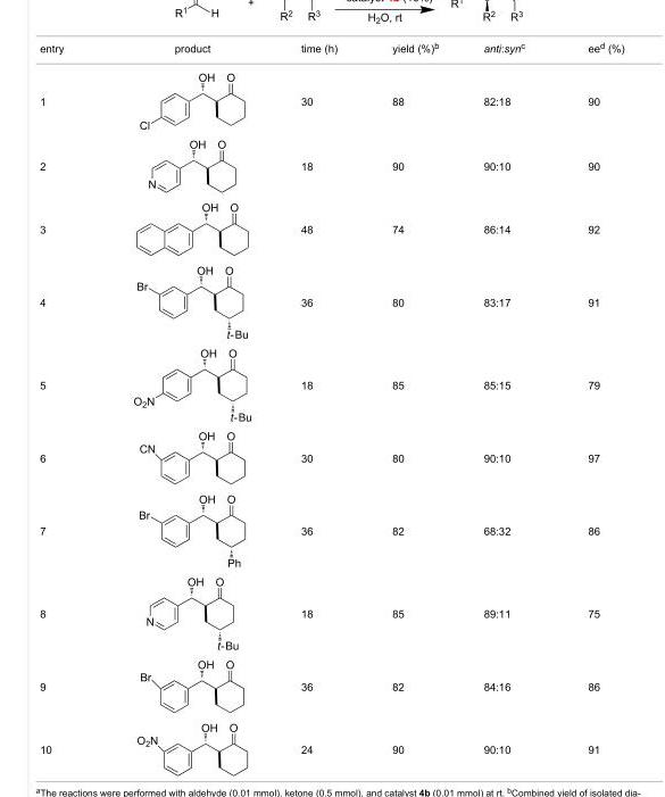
<table><tbody><tr><td>entry</td><td>product</td><td>time (h)</td><td>yield (%)<sup>b</sup></td><td>anti:syn<sup>c</sup></td><td>ee<sup>d</sup> (%)</td></tr><tr><td>1</td><td></td><td>30</td><td>88</td><td>82:18</td><td>90</td></tr><tr><td>2</td><td></td><td>18</td><td>90</td><td>90:10</td><td>90</td></tr><tr><td>3</td><td></td><td>48</td><td>74</td><td>86:14</td><td>92</td></tr><tr><td>4</td><td></td><td>36</td><td>80</td><td>83:17</td><td>91</td></tr><tr><td>5</td><td></td><td>18</td><td>85</td><td>85:15</td><td>79</td></tr><tr><td>6</td><td></td><td>30</td><td>80</td><td>90:10</td><td>97</td></tr><tr><td>7</td><td></td><td>36</td><td>82</td><td>68:32</td><td>86</td></tr><tr><td>8</td><td></td><td>18</td><td>85</td><td>89:11</td><td>75</td></tr><tr><td>9</td><td></td><td>36</td><td>82</td><td>84:16</td><td>86</td></tr><tr><td>10</td><td></td><td>24</td><td>90</td><td>90:10</td><td>91</td></tr></tbody></table>